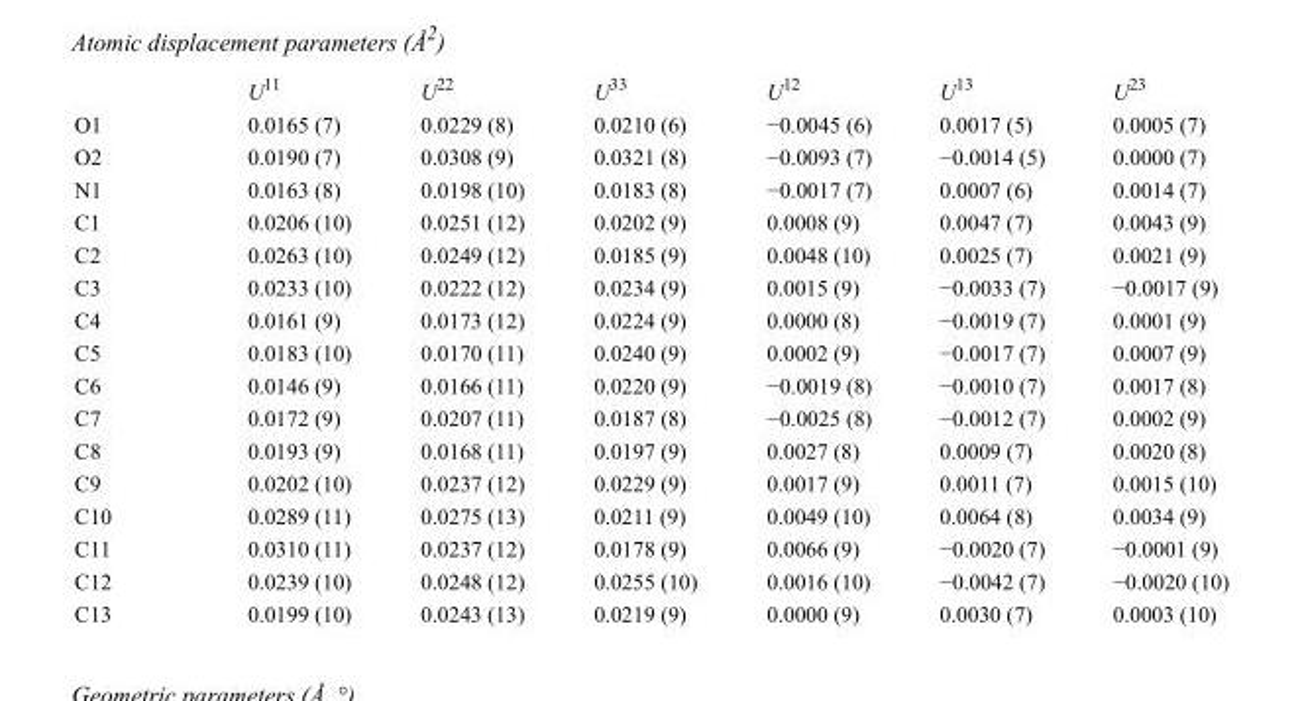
<table><thead><tr><td></td><td>U<sup>11</sup></td><td>U<sup>22</sup></td><td>U<sup>33</sup></td><td>U<sup>12</sup></td><td>U<sup>13</sup></td><td>U<sup>23</sup></td></tr></thead><tbody><tr><td>O1</td><td>0.0165 (7)</td><td>0.0229 (8)</td><td>0.0210 (6)</td><td>−0.0045 (6)</td><td>0.0017 (5)</td><td>0.0005 (7)</td></tr><tr><td>O2</td><td>0.0190 (7)</td><td>0.0308 (9)</td><td>0.0321 (8)</td><td>−0.0093 (7)</td><td>−0.0014 (5)</td><td>0.0000 (7)</td></tr><tr><td>N1</td><td>0.0163 (8)</td><td>0.0198 (10)</td><td>0.0183 (8)</td><td>−0.0017 (7)</td><td>0.0007 (6)</td><td>0.0014 (7)</td></tr><tr><td>C1</td><td>0.0206 (10)</td><td>0.0251 (12)</td><td>0.0202 (9)</td><td>0.0008 (9)</td><td>0.0047 (7)</td><td>0.0043 (9)</td></tr><tr><td>C2</td><td>0.0263 (10)</td><td>0.0249 (12)</td><td>0.0185 (9)</td><td>0.0048 (10)</td><td>0.0025 (7)</td><td>0.0021 (9)</td></tr><tr><td>C3</td><td>0.0233 (10)</td><td>0.0222 (12)</td><td>0.0234 (9)</td><td>0.0015 (9)</td><td>−0.0033 (7)</td><td>−0.0017 (9)</td></tr><tr><td>C4</td><td>0.0161 (9)</td><td>0.0173 (12)</td><td>0.0224 (9)</td><td>0.0000 (8)</td><td>−0.0019 (7)</td><td>0.0001 (9)</td></tr><tr><td>C5</td><td>0.0183 (10)</td><td>0.0170 (11)</td><td>0.0240 (9)</td><td>0.0002 (9)</td><td>−0.0017 (7)</td><td>0.0007 (9)</td></tr><tr><td>C6</td><td>0.0146 (9)</td><td>0.0166 (11)</td><td>0.0220 (9)</td><td>−0.0019 (8)</td><td>−0.0010 (7)</td><td>0.0017 (8)</td></tr><tr><td>C7</td><td>0.0172 (9)</td><td>0.0207 (11)</td><td>0.0187 (8)</td><td>−0.0025 (8)</td><td>−0.0012 (7)</td><td>0.0002 (9)</td></tr><tr><td>C8</td><td>0.0193 (9)</td><td>0.0168 (11)</td><td>0.0197 (9)</td><td>0.0027 (8)</td><td>0.0009 (7)</td><td>0.0020 (8)</td></tr><tr><td>C9</td><td>0.0202 (10)</td><td>0.0237 (12)</td><td>0.0229 (9)</td><td>0.0017 (9)</td><td>0.0011 (7)</td><td>0.0015 (10)</td></tr><tr><td>C10</td><td>0.0289 (11)</td><td>0.0275 (13)</td><td>0.0211 (9)</td><td>0.0049 (10)</td><td>0.0064 (8)</td><td>0.0034 (9)</td></tr><tr><td>C11</td><td>0.0310 (11)</td><td>0.0237 (12)</td><td>0.0178 (9)</td><td>0.0066 (9)</td><td>−0.0020 (7)</td><td>−0.0001 (9)</td></tr><tr><td>C12</td><td>0.0239 (10)</td><td>0.0248 (12)</td><td>0.0255 (10)</td><td>0.0016 (10)</td><td>−0.0042 (7)</td><td>−0.0020 (10)</td></tr><tr><td>C13</td><td>0.0199 (10)</td><td>0.0243 (13)</td><td>0.0219 (9)</td><td>0.0000 (9)</td><td>0.0030 (7)</td><td>0.0003 (10)</td></tr></tbody></table>